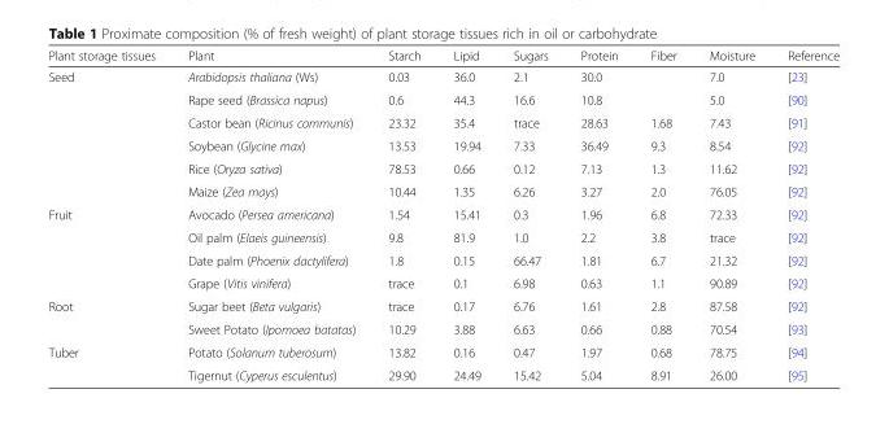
<table><thead><tr><td>Plant storage tissues</td><td>Plant</td><td>Starch</td><td>Lipid</td><td>Sugars</td><td>Protein</td><td>Fiber</td><td>Moisture</td><td>Reference</td></tr></thead><tbody><tr><td rowspan="6">Seed</td><td>Arabidopsis thaliana (Ws)</td><td>0.03</td><td>36.0</td><td>2.1</td><td>30.0</td><td></td><td>7.0</td><td>[23]</td></tr><tr><td>Rape seed (Brassica napus)</td><td>0.6</td><td>44.3</td><td>16.6</td><td>10.8</td><td></td><td>5.0</td><td>[90]</td></tr><tr><td>Castor bean (Ricinus communis)</td><td>23.32</td><td>35.4</td><td>trace</td><td>28.63</td><td>1.68</td><td>7.43</td><td>[91]</td></tr><tr><td>Soybean (Glycine max)</td><td>13.53</td><td>19.94</td><td>7.33</td><td>36.49</td><td>9.3</td><td>8.54</td><td>[92]</td></tr><tr><td>Rice (Oryza sativa)</td><td>78.53</td><td>0.66</td><td>0.12</td><td>7.13</td><td>1.3</td><td>11.62</td><td>[92]</td></tr><tr><td>Maize (Zea mays)</td><td>10.44</td><td>1.35</td><td>6.26</td><td>3.27</td><td>2.0</td><td>76.05</td><td>[92]</td></tr><tr><td rowspan="4">Fruit</td><td>Avocado (Persea americana)</td><td>1.54</td><td>15.41</td><td>0.3</td><td>1.96</td><td>6.8</td><td>72.33</td><td>[92]</td></tr><tr><td>Oil palm (Elaeis guineensis)</td><td>9.8</td><td>81.9</td><td>1.0</td><td>2.2</td><td>3.8</td><td>trace</td><td>[92]</td></tr><tr><td>Date palm (Phoenix dactylifera)</td><td>1.8</td><td>0.15</td><td>66.47</td><td>1.81</td><td>6.7</td><td>21.32</td><td>[92]</td></tr><tr><td>Grape (Vitis vinifera)</td><td>trace</td><td>0.1</td><td>6.98</td><td>0.63</td><td>1.1</td><td>90.89</td><td>[92]</td></tr><tr><td rowspan="2">Root</td><td>Sugar beet (Beta vulgaris)</td><td>trace</td><td>0.17</td><td>6.76</td><td>1.61</td><td>2.8</td><td>87.58</td><td>[92]</td></tr><tr><td>Sweet Potato (Ipomoea batatas)</td><td>10.29</td><td>3.88</td><td>6.63</td><td>0.66</td><td>0.88</td><td>70.54</td><td>[93]</td></tr><tr><td rowspan="2">Tuber</td><td>Potato (Solanum tuberosum)</td><td>13.82</td><td>0.16</td><td>0.47</td><td>1.97</td><td>0.68</td><td>78.75</td><td>[94]</td></tr><tr><td>Tigernut (Cyperus esculentus)</td><td>29.90</td><td>24.49</td><td>15.42</td><td>5.04</td><td>8.91</td><td>26.00</td><td>[95]</td></tr></tbody></table>